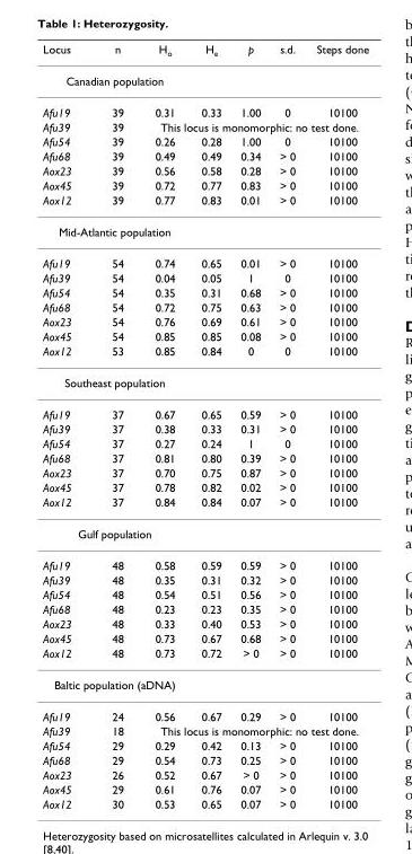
<table><thead><tr><td>Locus</td><td>n</td><td>H<sub>o</sub></td><td>H<sub>e</sub></td><td>p</td><td>s.d.</td><td>Steps done</td></tr></thead><tbody><tr><td colspan="7">Canadian population</td></tr><tr><td>Afu19</td><td>39</td><td>0.31</td><td>0.33</td><td>1.00</td><td>0</td><td>10100</td></tr><tr><td>Afu39</td><td>39</td><td colspan="5">This locus is monomorphic: no test done.</td></tr><tr><td>Afu54</td><td>39</td><td>0.26</td><td>0.28</td><td>1.00</td><td>0</td><td>10100</td></tr><tr><td>Afu68</td><td>39</td><td>0.49</td><td>0.49</td><td>0.34</td><td>&gt; 0</td><td>10100</td></tr><tr><td>Aox23</td><td>39</td><td>0.56</td><td>0.58</td><td>0.28</td><td>&gt; 0</td><td>10100</td></tr><tr><td>Aox45</td><td>39</td><td>0.72</td><td>0.77</td><td>0.83</td><td>&gt; 0</td><td>10100</td></tr><tr><td>Aox12</td><td>39</td><td>0.77</td><td>0.83</td><td>0.01</td><td>&gt; 0</td><td>10100</td></tr><tr><td colspan="7">Mid-Atlantic population</td></tr><tr><td>Afu19</td><td>54</td><td>0.74</td><td>0.65</td><td>0.01</td><td>&gt; 0</td><td>10100</td></tr><tr><td>Afu39</td><td>54</td><td>0.04</td><td>0.05</td><td>1</td><td>0</td><td>10100</td></tr><tr><td>Afu54</td><td>54</td><td>0.35</td><td>0.31</td><td>0.68</td><td>&gt; 0</td><td>10100</td></tr><tr><td>Afu68</td><td>54</td><td>0.72</td><td>0.75</td><td>0.63</td><td>&gt; 0</td><td>10100</td></tr><tr><td>Aox23</td><td>54</td><td>0.76</td><td>0.69</td><td>0.61</td><td>&gt; 0</td><td>10100</td></tr><tr><td>Aox45</td><td>54</td><td>0.85</td><td>0.85</td><td>0.08</td><td>&gt; 0</td><td>10100</td></tr><tr><td>Aox12</td><td>53</td><td>0.85</td><td>0.84</td><td>0</td><td>0</td><td>10100</td></tr><tr><td colspan="7">Southeast population</td></tr><tr><td>Afu19</td><td>37</td><td>0.67</td><td>0.65</td><td>0.59</td><td>&gt; 0</td><td>10100</td></tr><tr><td>Afu39</td><td>37</td><td>0.38</td><td>0.33</td><td>0.31</td><td>&gt; 0</td><td>10100</td></tr><tr><td>Afu54</td><td>37</td><td>0.27</td><td>0.24</td><td>1</td><td>0</td><td>10100</td></tr><tr><td>Afu68</td><td>37</td><td>0.81</td><td>0.80</td><td>0.39</td><td>&gt; 0</td><td>10100</td></tr><tr><td>Aox23</td><td>37</td><td>0.70</td><td>0.75</td><td>0.87</td><td>&gt; 0</td><td>10100</td></tr><tr><td>Aox45</td><td>37</td><td>0.78</td><td>0.82</td><td>0.02</td><td>&gt; 0</td><td>10100</td></tr><tr><td>Aox12</td><td>37</td><td>0.84</td><td>0.84</td><td>0.07</td><td>&gt; 0</td><td>10100</td></tr><tr><td colspan="7">Gulf population</td></tr><tr><td>Afu19</td><td>48</td><td>0.58</td><td>0.59</td><td>0.59</td><td>&gt; 0</td><td>10100</td></tr><tr><td>Afu39</td><td>48</td><td>0.35</td><td>0.31</td><td>0.32</td><td>&gt; 0</td><td>10100</td></tr><tr><td>Afu54</td><td>48</td><td>0.54</td><td>0.51</td><td>0.56</td><td>&gt; 0</td><td>10100</td></tr><tr><td>Afu68</td><td>48</td><td>0.23</td><td>0.23</td><td>0.35</td><td>&gt; 0</td><td>10100</td></tr><tr><td>Aox23</td><td>48</td><td>0.33</td><td>0.40</td><td>0.53</td><td>&gt; 0</td><td>10100</td></tr><tr><td>Aox45</td><td>48</td><td>0.73</td><td>0.67</td><td>0.68</td><td>&gt; 0</td><td>10100</td></tr><tr><td>Aox12</td><td>48</td><td>0.73</td><td>0.72</td><td>&gt; 0</td><td>&gt; 0</td><td>10100</td></tr><tr><td colspan="7">Baltic population (aDNA)</td></tr><tr><td>Afu19</td><td>24</td><td>0.56</td><td>0.67</td><td>0.29</td><td>&gt; 0</td><td>10100</td></tr><tr><td>Afu39</td><td>18</td><td colspan="5">This locus is monomorphic: no test done.</td></tr><tr><td>Afu54</td><td>29</td><td>0.29</td><td>0.42</td><td>0.13</td><td>&gt; 0</td><td>10100</td></tr><tr><td>Afu68</td><td>29</td><td>0.54</td><td>0.73</td><td>0.25</td><td>&gt; 0</td><td>10100</td></tr><tr><td>Aox23</td><td>26</td><td>0.52</td><td>0.67</td><td>&gt; 0</td><td>&gt; 0</td><td>10100</td></tr><tr><td>Aox45</td><td>29</td><td>0.61</td><td>0.76</td><td>0.07</td><td>&gt; 0</td><td>10100</td></tr><tr><td>Aox12</td><td>30</td><td>0.53</td><td>0.65</td><td>0.07</td><td>&gt; 0</td><td>10100</td></tr></tbody></table>